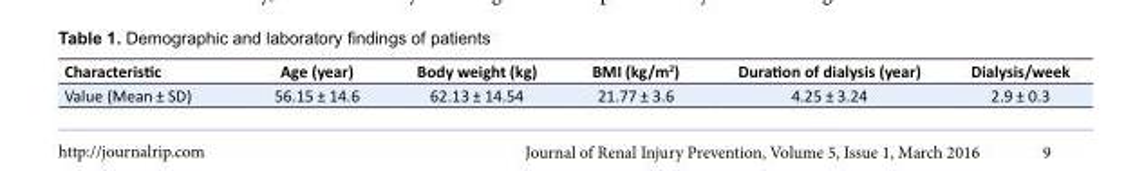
<table><tbody><tr><td>Characteristic</td><td>Age (year)</td><td>Body weight (kg)</td><td>BMI (kg/m<sup>2</sup>)</td><td>Duration of dialysis (year)</td><td>Dialysis/week</td></tr><tr><td>Value (Mean ± SD)</td><td>56.15 ± 14.6</td><td>62.13 ± 14.54</td><td>21.77 ± 3.6</td><td>4.25 ± 3.24</td><td>2.9 ± 0.3</td></tr></tbody></table>